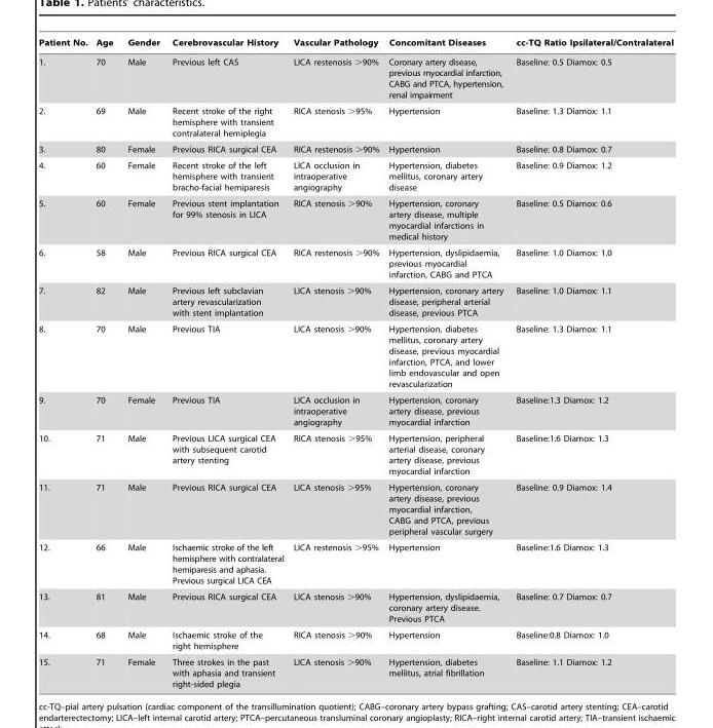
<table><thead><tr><td>Patient No.</td><td>Age</td><td>Gender</td><td>Cerebrovascular History</td><td>Vascular Pathology</td><td>Concomitant Diseases</td><td>cc-TQ Ratio Ipsilateral/Contralateral</td></tr></thead><tbody><tr><td>1.</td><td>70</td><td>Male</td><td>Previous left CAS</td><td>LICA restenosis &gt;90%</td><td>Coronary artery disease, previous myocardial infarction, CABG and PTCA, hypertension, renal impairment</td><td>Baseline: 0.5 Diamox: 0.5</td></tr><tr><td>2.</td><td>69</td><td>Male</td><td>Recent stroke of the right hemisphere with transient contralateral hemiplegia</td><td>RICA stenosis &gt;95%</td><td>Hypertension</td><td>Baseline: 1.3 Diamox: 1.1</td></tr><tr><td>3.</td><td>80</td><td>Female</td><td>Previous RICA surgical CEA</td><td>RICA restenosis &gt;90%</td><td>Hypertension</td><td>Baseline: 0.8 Diamox: 0.7</td></tr><tr><td>4.</td><td>60</td><td>Female</td><td>Recent stroke of the left hemisphere with transient bracho-facial hemiparesis</td><td>LICA occlusion in intraoperative angiography</td><td>Hypertension, diabetes mellitus, coronary artery disease</td><td>Baseline: 0.9 Diamox: 1.2</td></tr><tr><td>5.</td><td>60</td><td>Female</td><td>Previous stent implantation for 99% stenosis in LICA</td><td>RICA stenosis &gt;90%</td><td>Hypertension, coronary artery disease, multiple myocardial infarctions in medical history</td><td>Baseline: 0.5 Diamox: 0.6</td></tr><tr><td>6.</td><td>58</td><td>Male</td><td>Previous RICA surgical CEA</td><td>RICA restenosis &gt;90%</td><td>Hypertension, dyslipidaemia, previous myocardial infarction, CABG and PTCA</td><td>Baseline: 1.0 Diamox: 1.0</td></tr><tr><td>7.</td><td>82</td><td>Male</td><td>Previous left subclavian artery revascularization with stent implantation</td><td>LICA stenosis &gt;90%</td><td>Hypertension, coronary artery disease, peripheral arterial disease, previous PTCA</td><td>Baseline: 1.0 Diamox: 1.1</td></tr><tr><td>8.</td><td>70</td><td>Male</td><td>Previous TIA</td><td>LICA stenosis &gt;90%</td><td>Hypertension, diabetes mellitus, coronary artery disease, previous myocardial infarction, PTCA, and lower limb endovascular and open revascularization</td><td>Baseline: 1.3 Diamox: 1.1</td></tr><tr><td>9.</td><td>70</td><td>Female</td><td>Previous TIA</td><td>LICA occlusion in intraoperative angiography</td><td>Hypertension, coronary artery disease, previous myocardial infarction</td><td>Baseline:1.3 Diamox: 1.2</td></tr><tr><td>10.</td><td>71</td><td>Male</td><td>Previous LICA surgical CEA with subsequent carotid artery stenting</td><td>RICA stenosis &gt;95%</td><td>Hypertension, peripheral arterial disease, coronary artery disease, previous myocardial infarction</td><td>Baseline:1.6 Diamox: 1.3</td></tr><tr><td>11.</td><td>71</td><td>Male</td><td>Previous RICA surgical CEA</td><td>LICA stenosis &gt;95%</td><td>Hypertension, coronary artery disease, previous myocardial infarction, CABG and PTCA, previous peripheral vascular surgery</td><td>Baseline: 0.9 Diamox: 1.4</td></tr><tr><td>12.</td><td>66</td><td>Male</td><td>Ischaemic stroke of the left hemisphere with contralateral hemiparesis and aphasia. Previous surgical LICA CEA</td><td>LICA restenosis &gt;95%</td><td>Hypertension</td><td>Baseline:1.6 Diamox: 1.3</td></tr><tr><td>13.</td><td>81</td><td>Male</td><td>Previous RICA surgical CEA</td><td>LICA stenosis &gt;90%</td><td>Hypertension, dyslipidaemia, coronary artery disease. Previous PTCA</td><td>Baseline: 0.7 Diamox: 0.7</td></tr><tr><td>14.</td><td>68</td><td>Male</td><td>Ischaemic stroke of the right hemisphere</td><td>RICA stenosis &gt;90%</td><td>Hypertension</td><td>Baseline:0.8 Diamox: 1.0</td></tr><tr><td>15.</td><td>71</td><td>Female</td><td>Three strokes in the past with aphasia and transient right-sided plegia</td><td>LICA stenosis &gt;90%</td><td>Hypertension, diabetes mellitus, atrial fibrillation</td><td>Baseline: 1.1 Diamox: 1.2</td></tr></tbody></table>